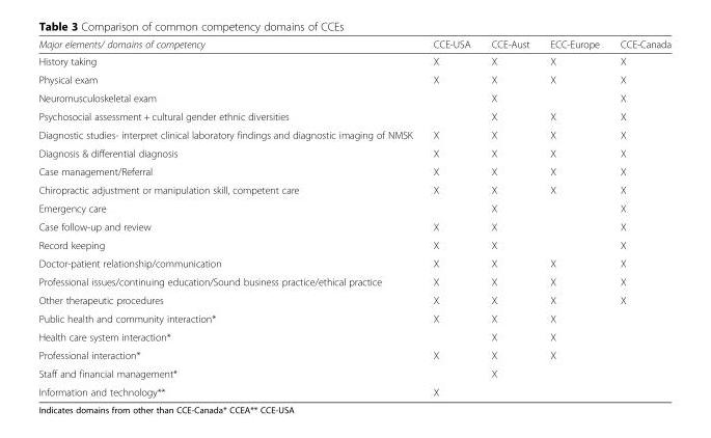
<table><thead><tr><td>Major elements/ domains of competency</td><td>CCE-USA</td><td>CCE-Aust</td><td>ECC-Europe</td><td>CCE-Canada</td></tr></thead><tbody><tr><td>History taking</td><td>X</td><td>X</td><td>X</td><td>X</td></tr><tr><td>Physical exam</td><td>X</td><td>X</td><td>X</td><td>X</td></tr><tr><td>Neuromusculoskeletal exam</td><td></td><td>X</td><td></td><td>X</td></tr><tr><td>Psychosocial assessment + cultural gender ethnic diversities</td><td></td><td>X</td><td>X</td><td>X</td></tr><tr><td>Diagnostic studies- interpret clinical laboratory findings and diagnostic imaging of NMSK</td><td>X</td><td>X</td><td>X</td><td>X</td></tr><tr><td>Diagnosis &amp; differential diagnosis</td><td>X</td><td>X</td><td>X</td><td>X</td></tr><tr><td>Case management/Referral</td><td>X</td><td>X</td><td>X</td><td>X</td></tr><tr><td>Chiropractic adjustment or manipulation skill, competent care</td><td>X</td><td>X</td><td>X</td><td>X</td></tr><tr><td>Emergency care</td><td></td><td>X</td><td></td><td>X</td></tr><tr><td>Case follow-up and review</td><td>X</td><td>X</td><td></td><td>X</td></tr><tr><td>Record keeping</td><td>X</td><td>X</td><td></td><td>X</td></tr><tr><td>Doctor-patient relationship/communication</td><td>X</td><td>X</td><td>X</td><td>X</td></tr><tr><td>Professional issues/continuing education/Sound business practice/ethical practice</td><td>X</td><td>X</td><td>X</td><td>X</td></tr><tr><td>Other therapeutic procedures</td><td>X</td><td>X</td><td>X</td><td>X</td></tr><tr><td>Public health and community interaction*</td><td>X</td><td>X</td><td>X</td><td></td></tr><tr><td>Health care system interaction*</td><td></td><td>X</td><td>X</td><td></td></tr><tr><td>Professional interaction*</td><td>X</td><td>X</td><td>X</td><td></td></tr><tr><td>Staff and financial management*</td><td></td><td>X</td><td></td><td></td></tr><tr><td>Information and technology**</td><td>X</td><td></td><td></td><td></td></tr></tbody></table>